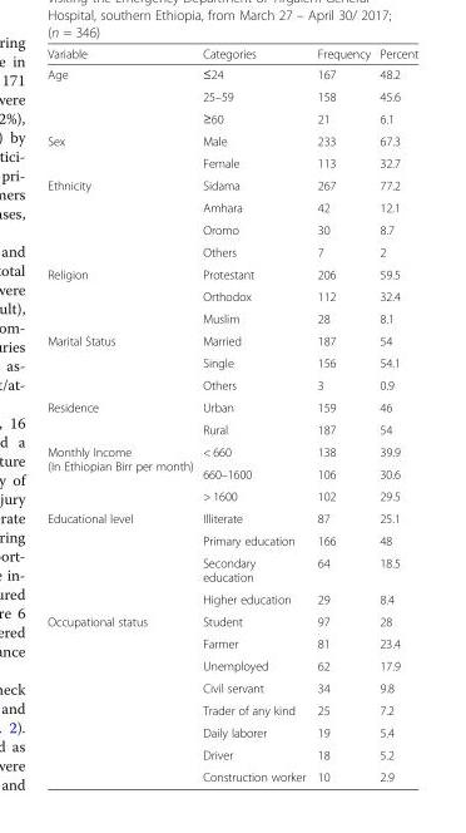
<table><thead><tr><td>Variable</td><td>Categories</td><td>Frequency</td><td>Percent</td></tr></thead><tbody><tr><td rowspan="3">Age</td><td>≤24</td><td>167</td><td>48.2</td></tr><tr><td>25–59</td><td>158</td><td>45.6</td></tr><tr><td>≥60</td><td>21</td><td>6.1</td></tr><tr><td rowspan="2">Sex</td><td>Male</td><td>233</td><td>67.3</td></tr><tr><td>Female</td><td>113</td><td>32.7</td></tr><tr><td rowspan="4">Ethnicity</td><td>Sidama</td><td>267</td><td>77.2</td></tr><tr><td>Amhara</td><td>42</td><td>12.1</td></tr><tr><td>Oromo</td><td>30</td><td>8.7</td></tr><tr><td>Others</td><td>7</td><td>2</td></tr><tr><td rowspan="3">Religion</td><td>Protestant</td><td>206</td><td>59.5</td></tr><tr><td>Orthodox</td><td>112</td><td>32.4</td></tr><tr><td>Muslim</td><td>28</td><td>8.1</td></tr><tr><td rowspan="3">Marital Status</td><td>Married</td><td>187</td><td>54</td></tr><tr><td>Single</td><td>156</td><td>54.1</td></tr><tr><td>Others</td><td>3</td><td>0.9</td></tr><tr><td rowspan="2">Residence</td><td>Urban</td><td>159</td><td>46</td></tr><tr><td>Rural</td><td>187</td><td>54</td></tr><tr><td rowspan="3">Monthly Income (In Ethiopian Birr per month)</td><td>&lt; 660</td><td>138</td><td>39.9</td></tr><tr><td>660–1600</td><td>106</td><td>30.6</td></tr><tr><td>&gt; 1600</td><td>102</td><td>29.5</td></tr><tr><td rowspan="4">Educational level</td><td>Illiterate</td><td>87</td><td>25.1</td></tr><tr><td>Primary education</td><td>166</td><td>48</td></tr><tr><td>Secondary education</td><td>64</td><td>18.5</td></tr><tr><td>Higher education</td><td>29</td><td>8.4</td></tr><tr><td rowspan="8">Occupational status</td><td>Student</td><td>97</td><td>28</td></tr><tr><td>Farmer</td><td>81</td><td>23.4</td></tr><tr><td>Unemployed</td><td>62</td><td>17.9</td></tr><tr><td>Civil servant</td><td>34</td><td>9.8</td></tr><tr><td>Trader of any kind</td><td>25</td><td>7.2</td></tr><tr><td>Daily laborer</td><td>19</td><td>5.4</td></tr><tr><td>Driver</td><td>18</td><td>5.2</td></tr><tr><td>Construction worker</td><td>10</td><td>2.9</td></tr></tbody></table>